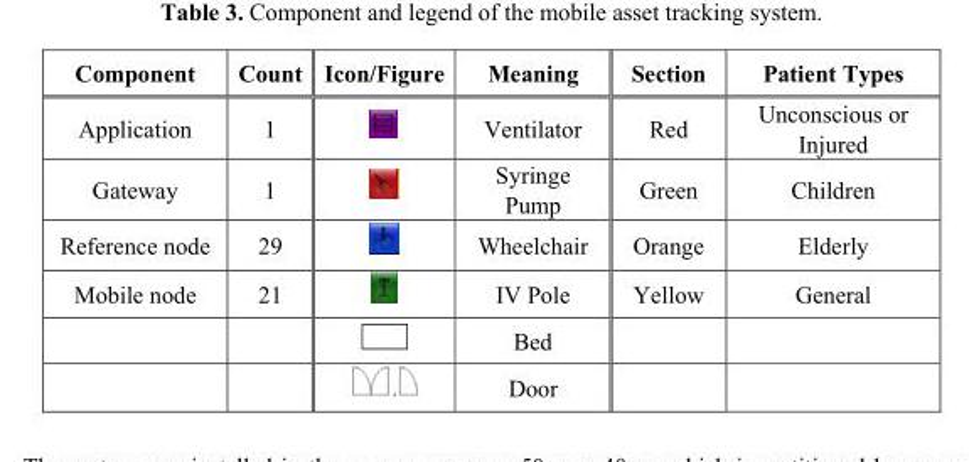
<table><thead><tr><td>Component</td><td>Count</td><td>Icon/Figure</td><td>Meaning</td><td>Section</td><td>Patient Types</td></tr></thead><tbody><tr><td>Application</td><td>1</td><td></td><td>Ventilator</td><td>Red</td><td>Unconscious or Injured</td></tr><tr><td>Gateway</td><td>1</td><td></td><td>Syringe Pump</td><td>Green</td><td>Children</td></tr><tr><td>Reference node</td><td>29</td><td></td><td>Wheelchair</td><td>Orange</td><td>Elderly</td></tr><tr><td rowspan="3">Mobile node</td><td>21</td><td></td><td>IV Pole</td><td>Yellow</td><td>General</td></tr><tr><td></td><td></td><td>Bed</td><td></td><td></td></tr><tr><td></td><td></td><td>Door</td><td></td><td></td></tr></tbody></table>